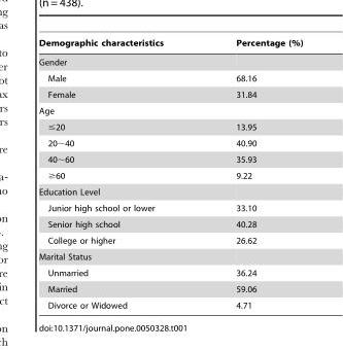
<table><thead><tr><td>Demographic characteristics</td><td>Percentage (%)</td></tr></thead><tbody><tr><td colspan="2">Gender</td></tr><tr><td>Male</td><td>68.16</td></tr><tr><td>Female</td><td>31.84</td></tr><tr><td colspan="2">Age</td></tr><tr><td>≤20</td><td>13.95</td></tr><tr><td>20∼40</td><td>40.90</td></tr><tr><td>40∼60</td><td>35.93</td></tr><tr><td>≥60</td><td>9.22</td></tr><tr><td colspan="2">Education Level</td></tr><tr><td>Junior high school or lower</td><td>33.10</td></tr><tr><td>Senior high school</td><td>40.28</td></tr><tr><td>College or higher</td><td>26.62</td></tr><tr><td colspan="2">Marital Status</td></tr><tr><td>Unmarried</td><td>36.24</td></tr><tr><td>Married</td><td>59.06</td></tr><tr><td>Divorce or Widowed</td><td>4.71</td></tr></tbody></table>